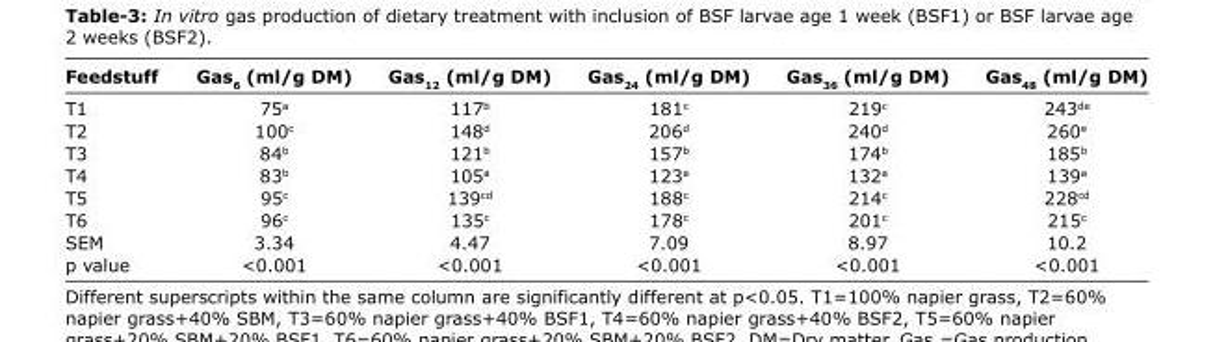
<table><thead><tr><td>Feedstuff</td><td>Gas<sub>6</sub> (ml/g DM)</td><td>Gas<sub>12</sub> (ml/g DM)</td><td>Gas<sub>24</sub> (ml/g DM)</td><td>Gas<sub>36</sub> (ml/g DM)</td><td>Gas<sub>48</sub> (ml/g DM)</td></tr></thead><tbody><tr><td>T1</td><td>75<sup>a</sup></td><td>117<sup>b</sup></td><td>181<sup>c</sup></td><td>219<sup>c</sup></td><td>243<sup>de</sup></td></tr><tr><td>T2</td><td>100<sup>c</sup></td><td>148<sup>d</sup></td><td>206<sup>d</sup></td><td>240<sup>d</sup></td><td>260<sup>e</sup></td></tr><tr><td>T3</td><td>84<sup>b</sup></td><td>121<sup>b</sup></td><td>157<sup>b</sup></td><td>174<sup>b</sup></td><td>185<sup>b</sup></td></tr><tr><td>T4</td><td>83<sup>b</sup></td><td>105<sup>a</sup></td><td>123<sup>a</sup></td><td>132<sup>a</sup></td><td>139<sup>a</sup></td></tr><tr><td>T5</td><td>95<sup>c</sup></td><td>139<sup>cd</sup></td><td>188<sup>c</sup></td><td>214<sup>c</sup></td><td>228<sup>cd</sup></td></tr><tr><td>T6</td><td>96<sup>c</sup></td><td>135<sup>c</sup></td><td>178<sup>c</sup></td><td>201<sup>c</sup></td><td>215<sup>c</sup></td></tr><tr><td>SEM</td><td>3.34</td><td>4.47</td><td>7.09</td><td>8.97</td><td>10.2</td></tr><tr><td>p value</td><td>&lt;0.001</td><td>&lt;0.001</td><td>&lt;0.001</td><td>&lt;0.001</td><td>&lt;0.001</td></tr></tbody></table>